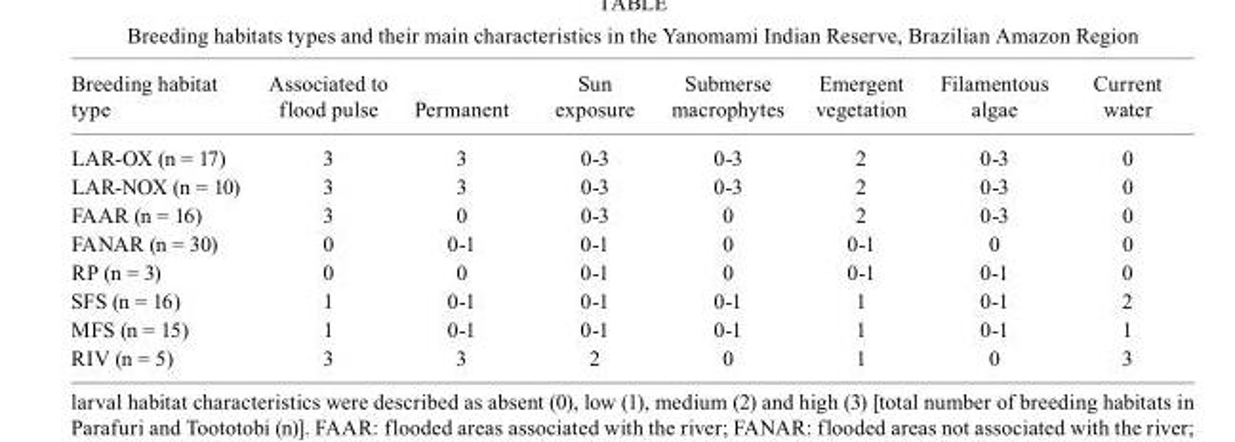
<table><thead><tr><td>Breeding habitat type</td><td>Associated to flood pulse</td><td>Permanent</td><td>Sun exposure</td><td>Submerse macrophytes</td><td>Emergent vegetation</td><td>Filamentous algae</td><td>Current water</td></tr></thead><tbody><tr><td>LAR-OX (n = 17)</td><td>3</td><td>3</td><td>0-3</td><td>0-3</td><td>2</td><td>0-3</td><td>0</td></tr><tr><td>LAR-NOX (n = 10)</td><td>3</td><td>3</td><td>0-3</td><td>0-3</td><td>2</td><td>0-3</td><td>0</td></tr><tr><td>FAAR (n = 16)</td><td>3</td><td>0</td><td>0-3</td><td>0</td><td>2</td><td>0-3</td><td>0</td></tr><tr><td>FANAR (n = 30)</td><td>0</td><td>0-1</td><td>0-1</td><td>0</td><td>0-1</td><td>0</td><td>0</td></tr><tr><td>RP (n = 3)</td><td>0</td><td>0</td><td>0-1</td><td>0</td><td>0-1</td><td>0-1</td><td>0</td></tr><tr><td>SFS (n = 16)</td><td>1</td><td>0-1</td><td>0-1</td><td>0-1</td><td>1</td><td>0-1</td><td>2</td></tr><tr><td>MFS (n = 15)</td><td>1</td><td>0-1</td><td>0-1</td><td>0-1</td><td>1</td><td>0-1</td><td>1</td></tr><tr><td>RIV (n = 5)</td><td>3</td><td>3</td><td>2</td><td>0</td><td>1</td><td>0</td><td>3</td></tr></tbody></table>